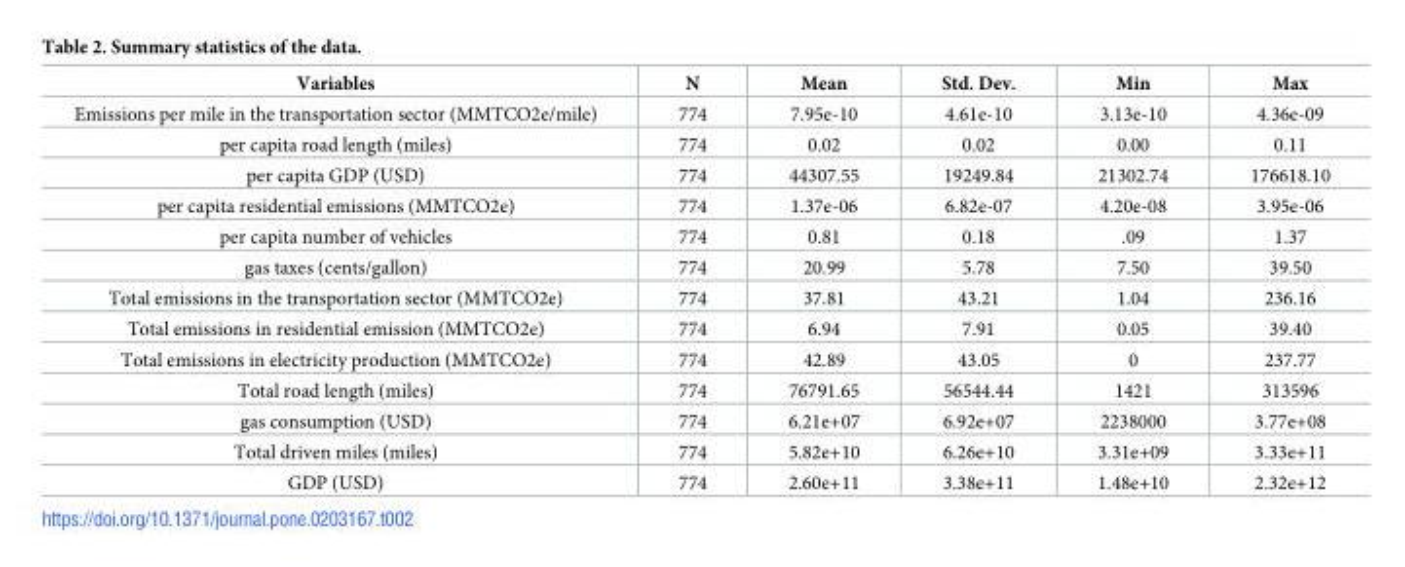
<table><thead><tr><td>Variables</td><td>N</td><td>Mean</td><td>Std. Dev.</td><td>Min</td><td>Max</td></tr></thead><tbody><tr><td>Emissions per mile in the transportation sector (MMTCO2e/mile)</td><td>774</td><td>7.95e-10</td><td>4.61e-10</td><td>3.13e-10</td><td>4.36e-09</td></tr><tr><td>per capita road length (miles)</td><td>774</td><td>0.02</td><td>0.02</td><td>0.00</td><td>0.11</td></tr><tr><td>per capita GDP (USD)</td><td>774</td><td>44307.55</td><td>19249.84</td><td>21302.74</td><td>176618.10</td></tr><tr><td>per capita residential emissions (MMTCO2e)</td><td>774</td><td>1.37e-06</td><td>6.82e-07</td><td>4.20e-08</td><td>3.95e-06</td></tr><tr><td>per capita number of vehicles</td><td>774</td><td>0.81</td><td>0.18</td><td>.09</td><td>1.37</td></tr><tr><td>gas taxes (cents/gallon)</td><td>774</td><td>20.99</td><td>5.78</td><td>7.50</td><td>39.50</td></tr><tr><td>Total emissions in the transportation sector (MMTCO2e)</td><td>774</td><td>37.81</td><td>43.21</td><td>1.04</td><td>236.16</td></tr><tr><td>Total emissions in residential emission (MMTCO2e)</td><td>774</td><td>6.94</td><td>7.91</td><td>0.05</td><td>39.40</td></tr><tr><td>Total emissions in electricity production (MMTCO2e)</td><td>774</td><td>42.89</td><td>43.05</td><td>0</td><td>237.77</td></tr><tr><td>Total road length (miles)</td><td>774</td><td>76791.65</td><td>56544.44</td><td>1421</td><td>313596</td></tr><tr><td>gas consumption (USD)</td><td>774</td><td>6.21e+07</td><td>6.92e+07</td><td>2238000</td><td>3.77e+08</td></tr><tr><td>Total driven miles (miles)</td><td>774</td><td>5.82e+10</td><td>6.26e+10</td><td>3.31e+09</td><td>3.33e+11</td></tr><tr><td>GDP (USD)</td><td>774</td><td>2.60e+11</td><td>3.38e+11</td><td>1.48e+10</td><td>2.32e+12</td></tr></tbody></table>